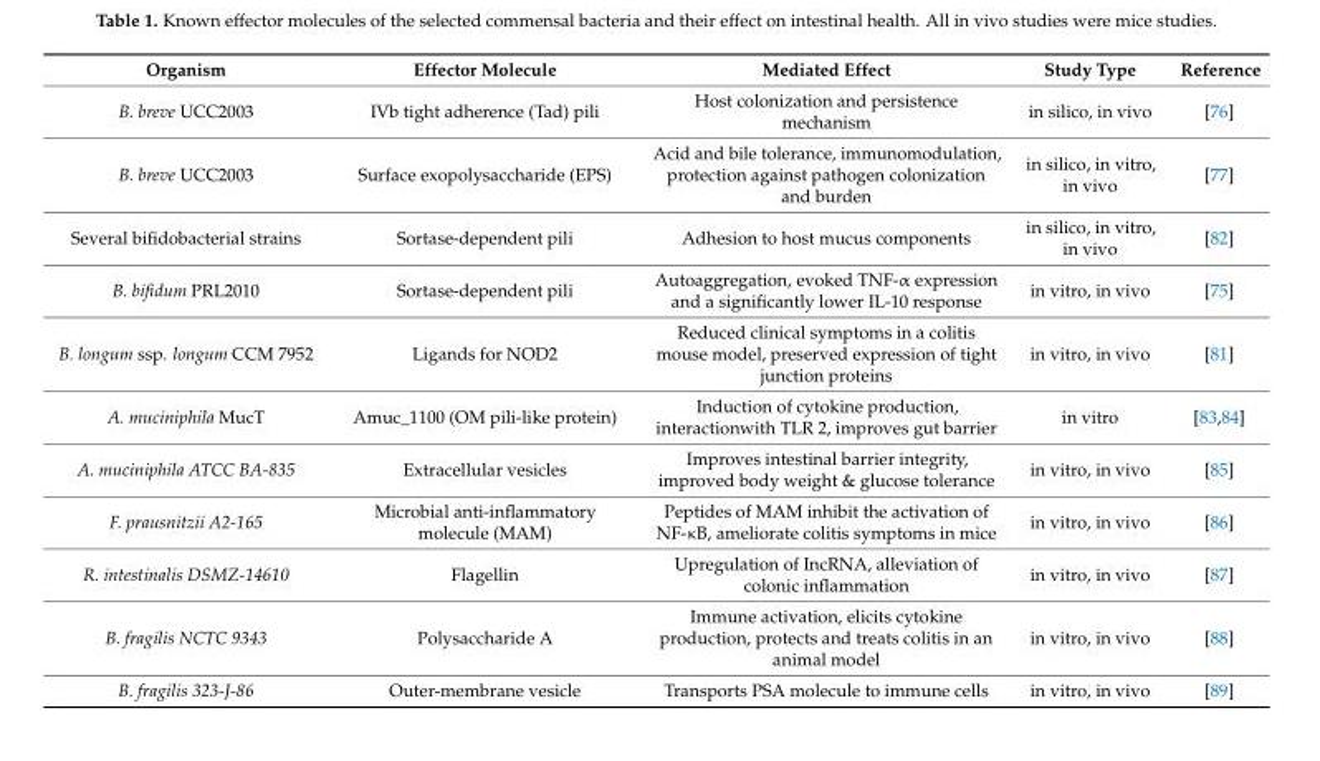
<table><thead><tr><td>Organism</td><td>Effector Molecule</td><td>Mediated Effect</td><td>Study Type</td><td>Reference</td></tr></thead><tbody><tr><td>B. breve UCC2003</td><td>IVb tight adherence (Tad) pili</td><td>Host colonization and persistence mechanism</td><td>in silico, in vivo</td><td>[76]</td></tr><tr><td>B. breve UCC2003</td><td>Surface exopolysaccharide (EPS)</td><td>Acid and bile tolerance, immunomodulation, protection against pathogen colonization and burden</td><td>in silico, in vitro, in vivo</td><td>[77]</td></tr><tr><td>Several bifidobacterial strains</td><td>Sortase-dependent pili</td><td>Adhesion to host mucus components</td><td>in silico, in vitro, in vivo</td><td>[82]</td></tr><tr><td>B. bifidum PRL2010</td><td>Sortase-dependent pili</td><td>Autoaggregation, evoked TNF-α expression and a significantly lower IL-10 response</td><td>in vitro, in vivo</td><td>[75]</td></tr><tr><td>B. longum ssp. longum CCM 7952</td><td>Ligands for NOD2</td><td>Reduced clinical symptoms in a colitis mouse model, preserved expression of tight junction proteins</td><td>in vitro, in vivo</td><td>[81]</td></tr><tr><td>A. muciniphila MucT</td><td>Amuc_1100 (OM pili-like protein)</td><td>Induction of cytokine production, interactionwith TLR 2, improves gut barrier</td><td>in vitro</td><td>[83,84]</td></tr><tr><td>A. muciniphila ATCC BA-835</td><td>Extracellular vesicles</td><td>Improves intestinal barrier integrity, improved body weight &amp; glucose tolerance</td><td>in vitro, in vivo</td><td>[85]</td></tr><tr><td>F. prausnitzii A2-165</td><td>Microbial anti-inflammatory molecule (MAM)</td><td>Peptides of MAM inhibit the activation of NF-κB, ameliorate colitis symptoms in mice</td><td>in vitro, in vivo</td><td>[86]</td></tr><tr><td>R. intestinalis DSMZ-14610</td><td>Flagellin</td><td>Upregulation of IncRNA, alleviation of colonic inflammation</td><td>in vitro, in vivo</td><td>[87]</td></tr><tr><td>B. fragilis NCTC 9343</td><td>Polysaccharide A</td><td>Immune activation, elicits cytokine production, protects and treats colitis in an animal model</td><td>in vitro, in vivo</td><td>[88]</td></tr><tr><td>B. fragilis 323-J-86</td><td>Outer-membrane vesicle</td><td>Transports PSA molecule to immune cells</td><td>in vitro, in vivo</td><td>[89]</td></tr></tbody></table>